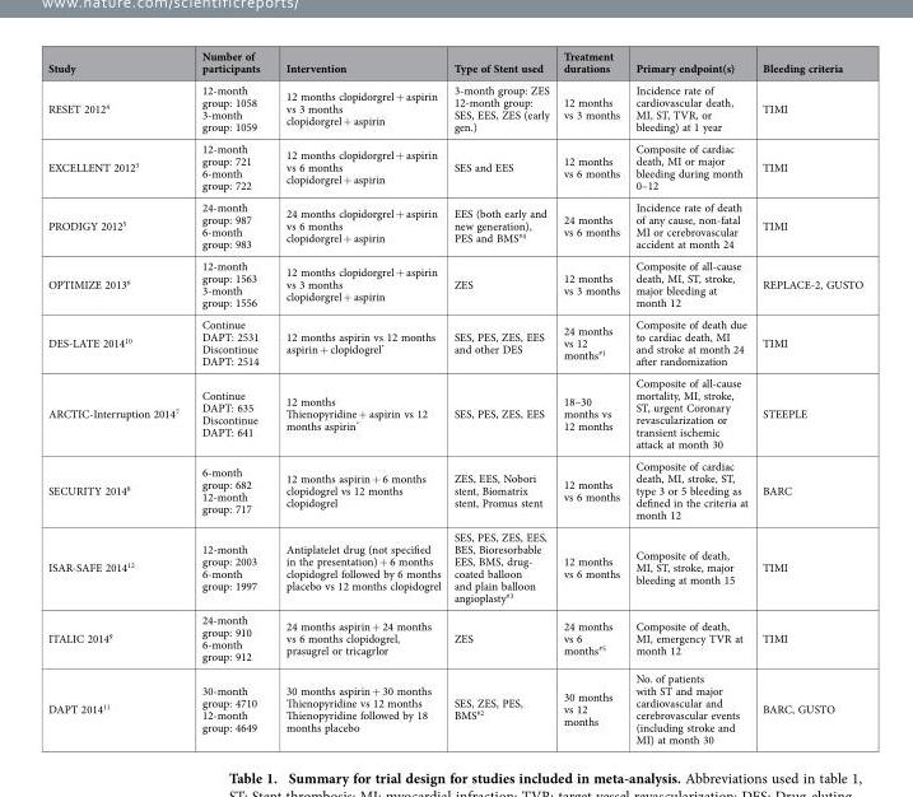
<table><thead><tr><td>Study</td><td>Number of participants</td><td>Intervention</td><td>Type of Stent used</td><td>Treatment durations</td><td>Primary endpoint(s)</td><td>Bleeding criteria</td></tr></thead><tbody><tr><td>RESET 2012<sup>4</sup></td><td>12-month group: 1058 3-month group: 1059</td><td>12 months clopidorgrel + aspirin vs 3 months clopidorgrel + aspirin</td><td>3-month group: ZES 12-month group: SES, EES, ZES (early gen.)</td><td>12 months vs 3 months</td><td>Incidence rate of cardiovascular death, MI, ST, TVR, or bleeding) at 1 year</td><td>TIMI</td></tr><tr><td>EXCELLENT 2012<sup>3</sup></td><td>12-month group: 721 6-month group: 722</td><td>12 months clopidorgrel + aspirin vs 6 months clopidorgrel + aspirin</td><td>SES and EES</td><td>12 months vs 6 months</td><td>Composite of cardiac death, MI or major bleeding during month 0–12</td><td>TIMI</td></tr><tr><td>PRODIGY 2012<sup>5</sup></td><td>24-month group: 987 6-month group: 983</td><td>24 months clopidorgrel + aspirin vs 6 months clopidorgrel + aspirin</td><td>EES (both early and new generation), PES and BMS#4</td><td>24 months vs 6 months</td><td>Incidence rate of death of any cause, non-fatal MI or cerebrovascular accident at month 24</td><td>TIMI</td></tr><tr><td>OPTIMIZE 2013<sup>6</sup></td><td>12-month group: 1563 3-month group: 1556</td><td>12 months clopidorgrel + aspirin vs 3 months clopidorgrel + aspirin</td><td>ZES</td><td>12 months vs 3 months</td><td>Composite of all-cause death, MI, ST, stroke, major bleeding at month 12</td><td>REPLACE-2, GUSTO</td></tr><tr><td>DES-LATE 2014<sup>10</sup></td><td>Continue DAPT: 2531 Discontinue DAPT: 2514</td><td>12 months aspirin vs 12 months aspirin + clopidogrel*</td><td>SES, PES, ZES, EES and other DES</td><td>24 months vs 12 months#1</td><td>Composite of death due to cardiac death, MI and stroke at month 24 after randomization</td><td>TIMI</td></tr><tr><td>ARCTIC-Interruption 2014<sup>7</sup></td><td>Continue DAPT: 635 Discontinue DAPT: 641</td><td>12 months Thienopyridine + aspirin vs 12 months aspirin*</td><td>SES, PES, ZES, EES</td><td>18–30 months vs 12 months</td><td>Composite of all-cause mortality, MI, stroke, ST, urgent Coronary revascularization or transient ischemic attack at month 30</td><td>STEEPLE</td></tr><tr><td>SECURITY 2014<sup>8</sup></td><td>6-month group: 682 12-month group: 717</td><td>12 months aspirin + 6 months clopidogrel vs 12 months clopidogrel</td><td>ZES, EES, Nobori stent, Biomatrix stent, Promus stent</td><td>12 months vs 6 months</td><td>Composite of cardiac death, MI, stroke, ST, type 3 or 5 bleeding as defined in the criteria at month 12</td><td>BARC</td></tr><tr><td>ISAR-SAFE 2014<sup>12</sup></td><td>12-month group: 2003 6-month group: 1997</td><td>Antiplatelet drug (not specified in the presentation) + 6 months clopidogrel followed by 6 months placebo vs 12 months clopidogrel</td><td>SES, PES, ZES, EES, BES, Bioresorbable EES, BMS, drug- coated balloon and plain balloon angioplasty#3</td><td>12 months vs 6 months</td><td>Composite of death, MI, ST, stroke, major bleeding at month 15</td><td>TIMI</td></tr><tr><td>ITALIC 2014<sup>9</sup></td><td>24-month group: 910 6-month group: 912</td><td>24 months aspirin + 24 months vs 6 months clopidogrel, prasugrel or tricagrlor</td><td>ZES</td><td>24 months vs 6 months#5</td><td>Composite of death, MI, emergency TVR at month 12</td><td>TIMI</td></tr><tr><td>DAPT 2014<sup>11</sup></td><td>30-month group: 4710 12-month group: 4649</td><td>30 months aspirin + 30 months Thienopyridine vs 12 months Thienopyridine followed by 18 months placebo</td><td>SES, ZES, PES, BMS#2</td><td>30 months vs 12 months</td><td>No. of patients with ST and major cardiovascular and cerebrovascular events (including stroke and MI) at month 30</td><td>BARC, GUSTO</td></tr></tbody></table>